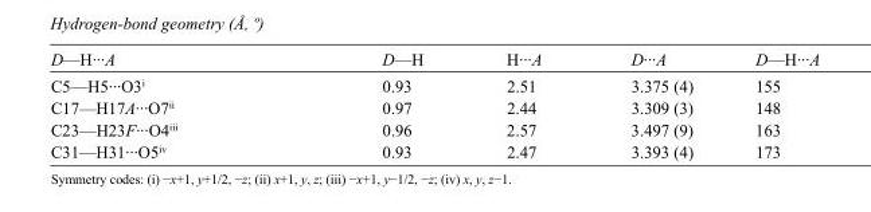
<table><tbody><tr><td>D—H···A</td><td>D—H</td><td>H···A</td><td>D···A</td><td>D—H···A</td></tr><tr><td>C5—H5···O3<sup>i</sup></td><td>0.93</td><td>2.51</td><td>3.375 (4)</td><td>155</td></tr><tr><td>C17—H17A···O7<sup>ii</sup></td><td>0.97</td><td>2.44</td><td>3.309 (3)</td><td>148</td></tr><tr><td>C23—H23F···O4<sup>iii</sup></td><td>0.96</td><td>2.57</td><td>3.497 (9)</td><td>163</td></tr><tr><td>C31—H31···O5<sup>iv</sup></td><td>0.93</td><td>2.47</td><td>3.393 (4)</td><td>173</td></tr></tbody></table>